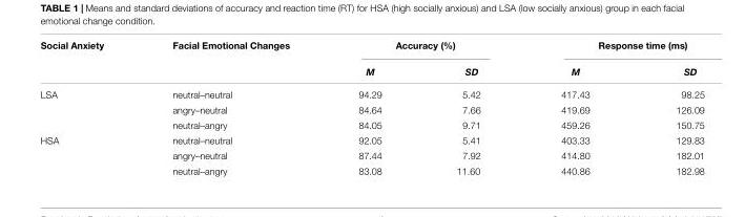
<table><thead><tr><td rowspan="2">Social Anxiety</td><td rowspan="2">Facial Emotional Changes</td><td colspan="2">Accuracy (%)</td><td colspan="2">Response time (ms)</td></tr><tr><td>M</td><td>SD</td><td>M</td><td>SD</td></tr></thead><tbody><tr><td rowspan="3">LSA</td><td>neutral–neutral</td><td>94.29</td><td>5.42</td><td>417.43</td><td>98.25</td></tr><tr><td>angry–neutral</td><td>84.64</td><td>7.66</td><td>419.69</td><td>126.09</td></tr><tr><td>neutral–angry</td><td>84.05</td><td>9.71</td><td>459.26</td><td>150.75</td></tr><tr><td rowspan="3">HSA</td><td>neutral–neutral</td><td>92.05</td><td>5.41</td><td>403.33</td><td>129.83</td></tr><tr><td>angry–neutral</td><td>87.44</td><td>7.92</td><td>414.80</td><td>182.01</td></tr><tr><td>neutral–angry</td><td>83.08</td><td>11.60</td><td>440.86</td><td>182.98</td></tr></tbody></table>